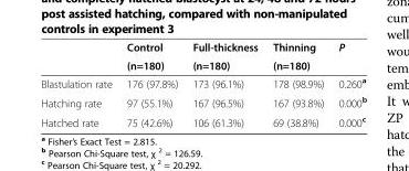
<table><thead><tr><td rowspan="2"></td><td rowspan="2">Control (n=180)</td><td rowspan="2">Full-thickness (n=180)</td><td rowspan="2">Thinning (n=180)</td><td rowspan="2">P</td></tr><tr></tr></thead><tbody><tr><td>Blastulation rate</td><td>176 (97.8%)</td><td>173 (96.1%)</td><td>178 (98.9%)</td><td>0.260<sup>a</sup></td></tr><tr><td>Hatching rate</td><td>97 (55.1%)</td><td>167 (96.5%)</td><td>167 (93.8%)</td><td>0.000<sup>b</sup></td></tr><tr><td>Hatched rate</td><td>75 (42.6%)</td><td>106 (61.3%)</td><td>69 (38.8%)</td><td>0.000<sup>c</sup></td></tr></tbody></table>